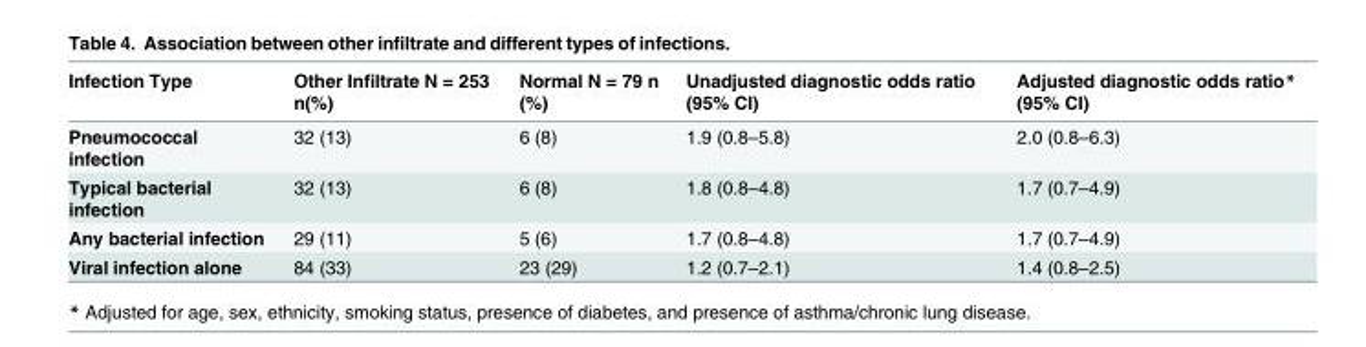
<table><thead><tr><td>Infection Type</td><td>Other Infiltrate N = 253 n(%)</td><td>Normal N = 79 n (%)</td><td>Unadjusted diagnostic odds ratio (95% CI)</td><td>Adjusted diagnostic odds ratio* (95% CI)</td></tr></thead><tbody><tr><td>Pneumococcal infection</td><td>32 (13)</td><td>6 (8)</td><td>1.9 (0.8–5.8)</td><td>2.0 (0.8–6.3)</td></tr><tr><td>Typical bacterial infection</td><td>32 (13)</td><td>6 (8)</td><td>1.8 (0.8–4.8)</td><td>1.7 (0.7–4.9)</td></tr><tr><td>Any bacterial infection</td><td>29 (11)</td><td>5 (6)</td><td>1.7 (0.8–4.8)</td><td>1.7 (0.7–4.9)</td></tr><tr><td>Viral infection alone</td><td>84 (33)</td><td>23 (29)</td><td>1.2 (0.7–2.1)</td><td>1.4 (0.8–2.5)</td></tr></tbody></table>